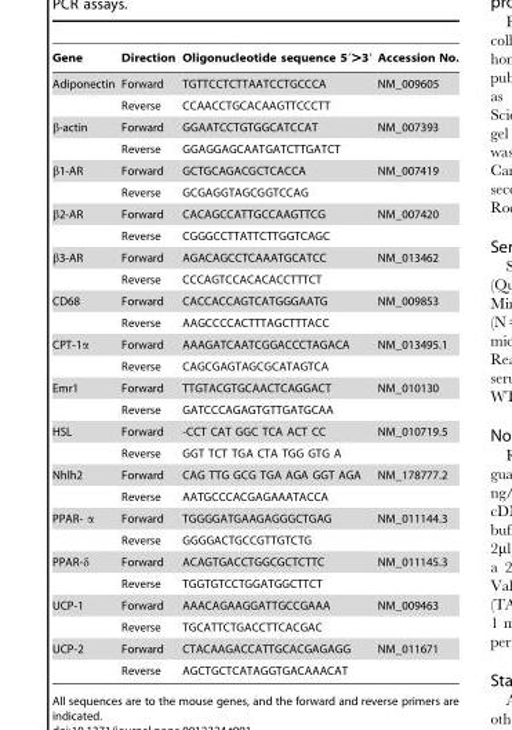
<table><thead><tr><td>Gene</td><td>Direction</td><td>Oligonucleotide sequence 59. .39</td><td>Accession No.</td></tr></thead><tbody><tr><td rowspan="2">Adiponectin</td><td>Forward</td><td>TGTTCCTCTTAATCCTGCCCA</td><td>NM_009605</td></tr><tr><td>Reverse</td><td>CCAACCTGCACAAGTTCCCTT</td><td></td></tr><tr><td rowspan="2">β-actin</td><td>Forward</td><td>GGAATCCTGTGGCATCCAT</td><td>NM_007393</td></tr><tr><td>Reverse</td><td>GGAGGAGCAATGATCTTGATCT</td><td></td></tr><tr><td rowspan="2">β1-AR</td><td>Forward</td><td>GCTGCAGACGCTCACCA</td><td>NM_007419</td></tr><tr><td>Reverse</td><td>GCGAGGTAGCGGTCCAG</td><td></td></tr><tr><td rowspan="2">β2-AR</td><td>Forward</td><td>CACAGCCATTGCCAAGTTCG</td><td>NM_007420</td></tr><tr><td>Reverse</td><td>CGGGCCTTATTCTTGGTCAGC</td><td></td></tr><tr><td rowspan="2">β3-AR</td><td>Forward</td><td>AGACAGCCTCAAATGCATCC</td><td>NM_013462</td></tr><tr><td>Reverse</td><td>CCCAGTCCACACACCTTTCT</td><td></td></tr><tr><td rowspan="2">CD68</td><td>Forward</td><td>CACCACCAGTCATGGGAATG</td><td>NM_009853</td></tr><tr><td>Reverse</td><td>AAGCCCCACTTTAGCTTTACC</td><td></td></tr><tr><td rowspan="2">CPT-1α</td><td>Forward</td><td>AAAGATCAATCGGACCCTAGACA</td><td>NM_013495.1</td></tr><tr><td>Reverse</td><td>CAGCGAGTAGCGCATAGTCA</td><td></td></tr><tr><td rowspan="2">Emr1</td><td>Forward</td><td>TTGTACGTGCAACTCAGGACT</td><td>NM_010130</td></tr><tr><td>Reverse</td><td>GATCCCAGAGTGTTGATGCAA</td><td></td></tr><tr><td rowspan="2">HSL</td><td>Forward</td><td>-CCT CAT GGC TCA ACT CC</td><td>NM_010719.5</td></tr><tr><td>Reverse</td><td>GGT TCT TGA CTA TGG GTG A</td><td></td></tr><tr><td rowspan="2">Nhlh2</td><td>Forward</td><td>CAG TTG GCG TGA AGA GGT AGA</td><td>NM_178777.2</td></tr><tr><td>Reverse</td><td>AATGCCCACGAGAAATACCA</td><td></td></tr><tr><td rowspan="2">PPAR- α</td><td>Forward</td><td>TGGGGATGAAGAGGGCTGAG</td><td>NM_011144.3</td></tr><tr><td>Reverse</td><td>GGGGACTGCCGTTGTCTG</td><td></td></tr><tr><td rowspan="2">PPAR-δ</td><td>Forward</td><td>ACAGTGACCTGGCGCTCTTC</td><td>NM_011145.3</td></tr><tr><td>Reverse</td><td>TGGTGTCCTGGATGGCTTCT</td><td></td></tr><tr><td rowspan="2">UCP-1</td><td>Forward</td><td>AAACAGAAGGATTGCCGAAA</td><td>NM_009463</td></tr><tr><td>Reverse</td><td>TGCATTCTGACCTTCACGAC</td><td></td></tr><tr><td rowspan="2">UCP-2</td><td>Forward</td><td>CTACAAGACCATTGCACGAGAGG</td><td>NM_011671</td></tr><tr><td>Reverse</td><td>AGCTGCTCATAGGTGACAAACAT</td><td></td></tr></tbody></table>